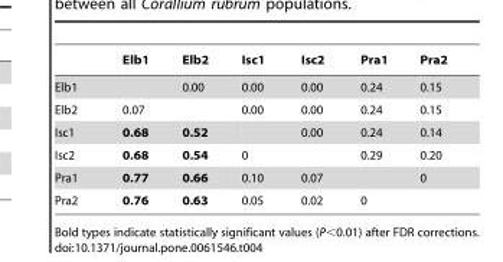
<table><thead><tr><td></td><td>Elb1</td><td>Elb2</td><td>Isc1</td><td>Isc2</td><td>Pra1</td><td>Pra2</td></tr></thead><tbody><tr><td>Elb1</td><td></td><td>0.00</td><td>0.00</td><td>0.00</td><td>0.24</td><td>0.15</td></tr><tr><td>Elb2</td><td>0.07</td><td></td><td>0.00</td><td>0.00</td><td>0.24</td><td>0.15</td></tr><tr><td>Isc1</td><td>0.68</td><td>0.52</td><td></td><td>0.00</td><td>0.24</td><td>0.14</td></tr><tr><td>Isc2</td><td>0.68</td><td>0.54</td><td>0</td><td></td><td>0.29</td><td>0.20</td></tr><tr><td>Pra1</td><td>0.77</td><td>0.66</td><td>0.10</td><td>0.07</td><td></td><td>0</td></tr><tr><td>Pra2</td><td>0.76</td><td>0.63</td><td>0.05</td><td>0.02</td><td>0</td><td></td></tr></tbody></table>